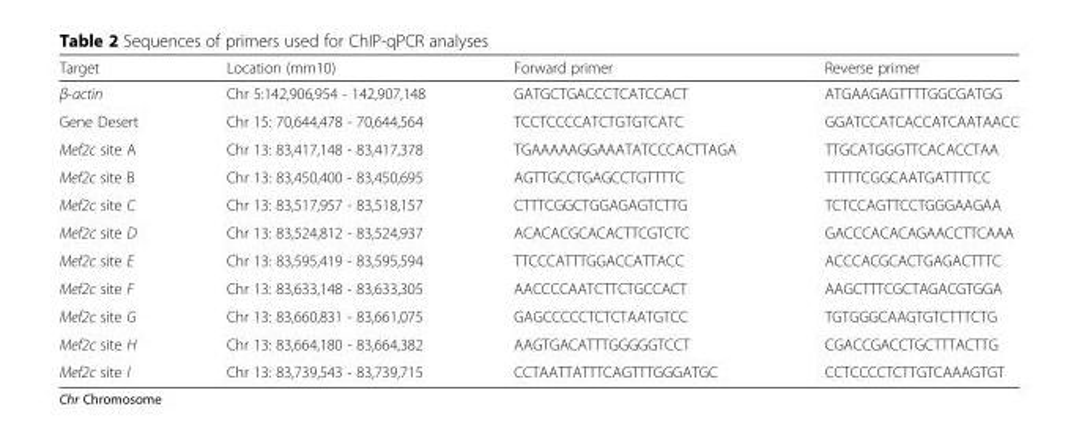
<table><thead><tr><td>Target</td><td>Location (mm10)</td><td>Forward primer</td><td>Reverse primer</td></tr></thead><tbody><tr><td>β-actin</td><td>Chr 5:142,906,954 - 142,907,148</td><td>GATGCTGACCCTCATCCACT</td><td>ATGAAGAGTTTTGGCGATGG</td></tr><tr><td>Gene Desert</td><td>Chr 15: 70,644,478 - 70,644,564</td><td>TCCTCCCCATCTGTGTCATC</td><td>GGATCCATCACCATCAATAACC</td></tr><tr><td>Mef2c site A</td><td>Chr 13: 83,417,148 - 83,417,378</td><td>TGAAAAAGGAAATATCCCACTTAGA</td><td>TTGCATGGGTTCACACCTAA</td></tr><tr><td>Mef2c site B</td><td>Chr 13: 83,450,400 - 83,450,695</td><td>AGTTGCCTGAGCCTGTTTTC</td><td>TTTTTCGGCAATGATTTTCC</td></tr><tr><td>Mef2c site C</td><td>Chr 13: 83,517,957 - 83,518,157</td><td>CTTTCGGCTGGAGAGTCTTG</td><td>TCTCCAGTTCCTGGGAAGAA</td></tr><tr><td>Mef2c site D</td><td>Chr 13: 83,524,812 - 83,524,937</td><td>ACACACGCACACTTCGTCTC</td><td>GACCCACACAGAACCTTCAAA</td></tr><tr><td>Mef2c site E</td><td>Chr 13: 83,595,419 - 83,595,594</td><td>TTCCCATTTGGACCATTACC</td><td>ACCCACGCACTGAGACTTTC</td></tr><tr><td>Mef2c site F</td><td>Chr 13: 83,633,148 - 83,633,305</td><td>AACCCCAATCTTCTGCCACT</td><td>AAGCTTTCGCTAGACGTGGA</td></tr><tr><td>Mef2c site G</td><td>Chr 13: 83,660,831 - 83,661,075</td><td>GAGCCCCCTCTCTAATGTCC</td><td>TGTGGGCAAGTGTCTTTCTG</td></tr><tr><td>Mef2c site H</td><td>Chr 13: 83,664,180 - 83,664,382</td><td>AAGTGACATTTGGGGGTCCT</td><td>CGACCGACCTGCTTTACTTG</td></tr><tr><td>Mef2c site I</td><td>Chr 13: 83,739,543 - 83,739,715</td><td>CCTAATTATTTCAGTTTGGGATGC</td><td>CCTCCCCTCTTGTCAAAGTGT</td></tr></tbody></table>